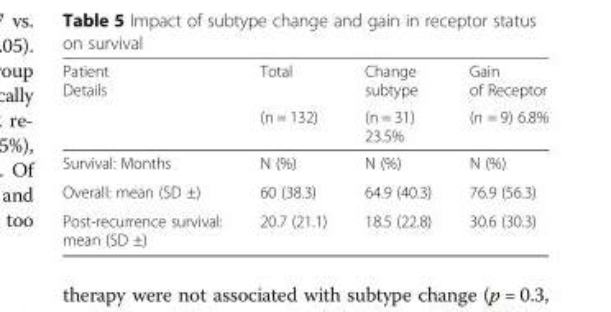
<table><thead><tr><td rowspan="2">Patient Details</td><td rowspan="2">Total (n = 132)</td><td rowspan="2">Change subtype (n = 31) 23.5%</td><td rowspan="2">Gain of Receptor (n = 9) 6.8%</td></tr><tr></tr></thead><tbody><tr><td>Survival: Months</td><td>N (%)</td><td>N (%)</td><td>N (%)</td></tr><tr><td>Overall: mean (SD ±)</td><td>60 (38.3)</td><td>64.9 (40.3)</td><td>76.9 (56.3)</td></tr><tr><td>Post-recurrence survival: mean (SD ±)</td><td>20.7 (21.1)</td><td>18.5 (22.8)</td><td>30.6 (30.3)</td></tr></tbody></table>